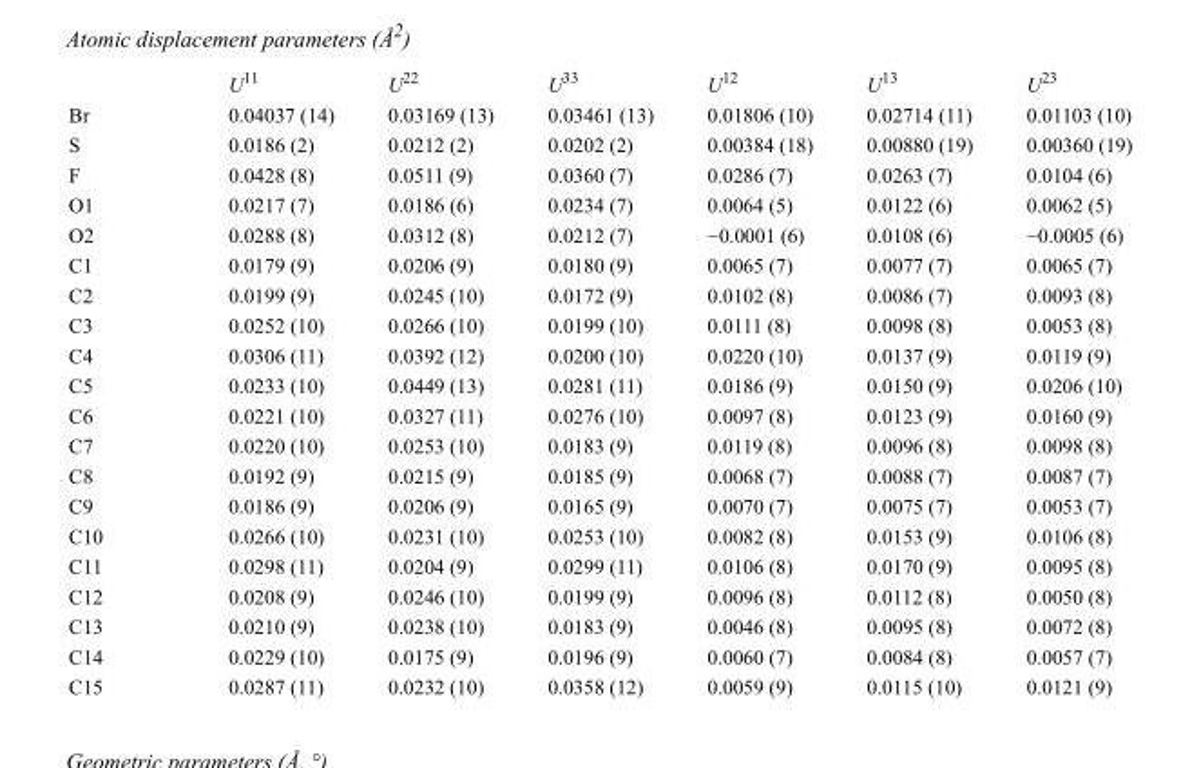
<table><thead><tr><td></td><td>U<sup>11</sup></td><td>U<sup>22</sup></td><td>U<sup>33</sup></td><td>U<sup>12</sup></td><td>U<sup>13</sup></td><td>U<sup>23</sup></td></tr></thead><tbody><tr><td>Br</td><td>0.04037 (14)</td><td>0.03169 (13)</td><td>0.03461 (13)</td><td>0.01806 (10)</td><td>0.02714 (11)</td><td>0.01103 (10)</td></tr><tr><td>S</td><td>0.0186 (2)</td><td>0.0212 (2)</td><td>0.0202 (2)</td><td>0.00384 (18)</td><td>0.00880 (19)</td><td>0.00360 (19)</td></tr><tr><td>F</td><td>0.0428 (8)</td><td>0.0511 (9)</td><td>0.0360 (7)</td><td>0.0286 (7)</td><td>0.0263 (7)</td><td>0.0104 (6)</td></tr><tr><td>O1</td><td>0.0217 (7)</td><td>0.0186 (6)</td><td>0.0234 (7)</td><td>0.0064 (5)</td><td>0.0122 (6)</td><td>0.0062 (5)</td></tr><tr><td>O2</td><td>0.0288 (8)</td><td>0.0312 (8)</td><td>0.0212 (7)</td><td>−0.0001 (6)</td><td>0.0108 (6)</td><td>−0.0005 (6)</td></tr><tr><td>C1</td><td>0.0179 (9)</td><td>0.0206 (9)</td><td>0.0180 (9)</td><td>0.0065 (7)</td><td>0.0077 (7)</td><td>0.0065 (7)</td></tr><tr><td>C2</td><td>0.0199 (9)</td><td>0.0245 (10)</td><td>0.0172 (9)</td><td>0.0102 (8)</td><td>0.0086 (7)</td><td>0.0093 (8)</td></tr><tr><td>C3</td><td>0.0252 (10)</td><td>0.0266 (10)</td><td>0.0199 (10)</td><td>0.0111 (8)</td><td>0.0098 (8)</td><td>0.0053 (8)</td></tr><tr><td>C4</td><td>0.0306 (11)</td><td>0.0392 (12)</td><td>0.0200 (10)</td><td>0.0220 (10)</td><td>0.0137 (9)</td><td>0.0119 (9)</td></tr><tr><td>C5</td><td>0.0233 (10)</td><td>0.0449 (13)</td><td>0.0281 (11)</td><td>0.0186 (9)</td><td>0.0150 (9)</td><td>0.0206 (10)</td></tr><tr><td>C6</td><td>0.0221 (10)</td><td>0.0327 (11)</td><td>0.0276 (10)</td><td>0.0097 (8)</td><td>0.0123 (9)</td><td>0.0160 (9)</td></tr><tr><td>C7</td><td>0.0220 (10)</td><td>0.0253 (10)</td><td>0.0183 (9)</td><td>0.0119 (8)</td><td>0.0096 (8)</td><td>0.0098 (8)</td></tr><tr><td>C8</td><td>0.0192 (9)</td><td>0.0215 (9)</td><td>0.0185 (9)</td><td>0.0068 (7)</td><td>0.0088 (7)</td><td>0.0087 (7)</td></tr><tr><td>C9</td><td>0.0186 (9)</td><td>0.0206 (9)</td><td>0.0165 (9)</td><td>0.0070 (7)</td><td>0.0075 (7)</td><td>0.0053 (7)</td></tr><tr><td>C10</td><td>0.0266 (10)</td><td>0.0231 (10)</td><td>0.0253 (10)</td><td>0.0082 (8)</td><td>0.0153 (9)</td><td>0.0106 (8)</td></tr><tr><td>C11</td><td>0.0298 (11)</td><td>0.0204 (9)</td><td>0.0299 (11)</td><td>0.0106 (8)</td><td>0.0170 (9)</td><td>0.0095 (8)</td></tr><tr><td>C12</td><td>0.0208 (9)</td><td>0.0246 (10)</td><td>0.0199 (9)</td><td>0.0096 (8)</td><td>0.0112 (8)</td><td>0.0050 (8)</td></tr><tr><td>C13</td><td>0.0210 (9)</td><td>0.0238 (10)</td><td>0.0183 (9)</td><td>0.0046 (8)</td><td>0.0095 (8)</td><td>0.0072 (8)</td></tr><tr><td>C14</td><td>0.0229 (10)</td><td>0.0175 (9)</td><td>0.0196 (9)</td><td>0.0060 (7)</td><td>0.0084 (8)</td><td>0.0057 (7)</td></tr><tr><td>C15</td><td>0.0287 (11)</td><td>0.0232 (10)</td><td>0.0358 (12)</td><td>0.0059 (9)</td><td>0.0115 (10)</td><td>0.0121 (9)</td></tr></tbody></table>